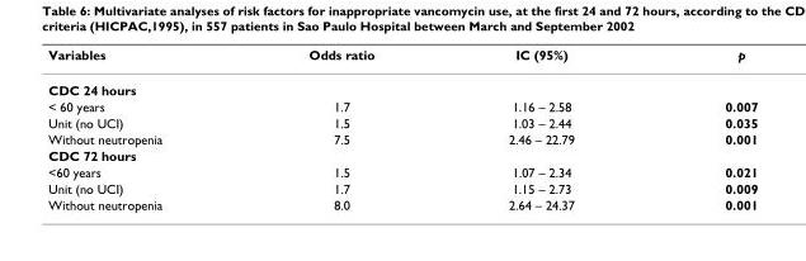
<table><thead><tr><td>Variables</td><td>Odds ratio</td><td>IC (95%)</td><td>p</td></tr></thead><tbody><tr><td colspan="4">CDC 24 hours</td></tr><tr><td>&lt; 60 years</td><td>1.7</td><td>1.16 – 2.58</td><td>0.007</td></tr><tr><td>Unit (no UCI)</td><td>1.5</td><td>1.03 – 2.44</td><td>0.035</td></tr><tr><td>Without neutropenia</td><td>7.5</td><td>2.46 – 22.79</td><td>0.001</td></tr><tr><td colspan="4">CDC 72 hours</td></tr><tr><td>&lt;60 years</td><td>1.5</td><td>1.07 – 2.34</td><td>0.021</td></tr><tr><td>Unit (no UCI)</td><td>1.7</td><td>1.15 – 2.73</td><td>0.009</td></tr><tr><td>Without neutropenia</td><td>8.0</td><td>2.64 – 24.37</td><td>0.001</td></tr></tbody></table>